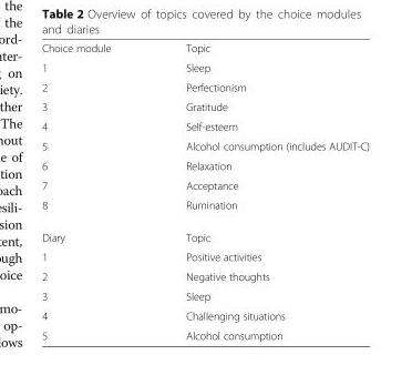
<table><tbody><tr><td>Choice module</td><td>Topic</td></tr><tr><td>1</td><td>Sleep</td></tr><tr><td>2</td><td>Perfectionism</td></tr><tr><td>3</td><td>Gratitude</td></tr><tr><td>4</td><td>Self-esteem</td></tr><tr><td>5</td><td>Alcohol consumption (includes AUDIT-C)</td></tr><tr><td>6</td><td>Relaxation</td></tr><tr><td>7</td><td>Acceptance</td></tr><tr><td>8</td><td>Rumination</td></tr><tr><td>Diary</td><td>Topic</td></tr><tr><td>1</td><td>Positive activities</td></tr><tr><td>2</td><td>Negative thoughts</td></tr><tr><td>3</td><td>Sleep</td></tr><tr><td>4</td><td>Challenging situations</td></tr><tr><td>5</td><td>Alcohol consumption</td></tr></tbody></table>